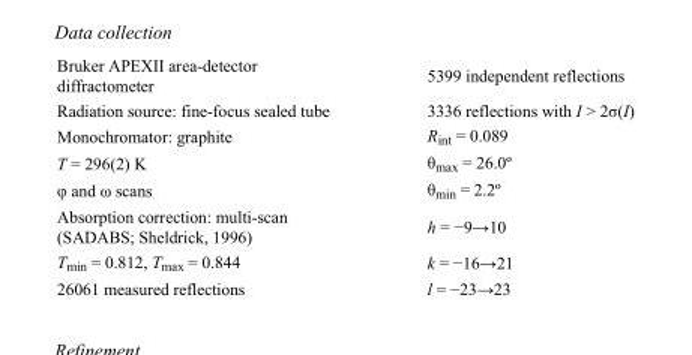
<table><tbody><tr><td>Bruker APEXII area-detector diffractometer</td><td>5399 independent reflections</td></tr><tr><td>Radiation source: fine-focus sealed tube</td><td>3336 reflections with I &gt; 2σ(I)</td></tr><tr><td>Monochromator: graphite</td><td>R<sub>int</sub> = 0.089</td></tr><tr><td>T = 296(2) K</td><td>θ<sub>max</sub> = 26.0º</td></tr><tr><td>φ and ω scans</td><td>θ<sub>min</sub> = 2.2º</td></tr><tr><td>Absorption correction: multi-scan (SADABS; Sheldrick, 1996)</td><td>h = −9→10</td></tr><tr><td>T<sub>min</sub> = 0.812, T<sub>max</sub> = 0.844</td><td>k = −16→21</td></tr><tr><td>26061 measured reflections</td><td>l = −23→23</td></tr></tbody></table>